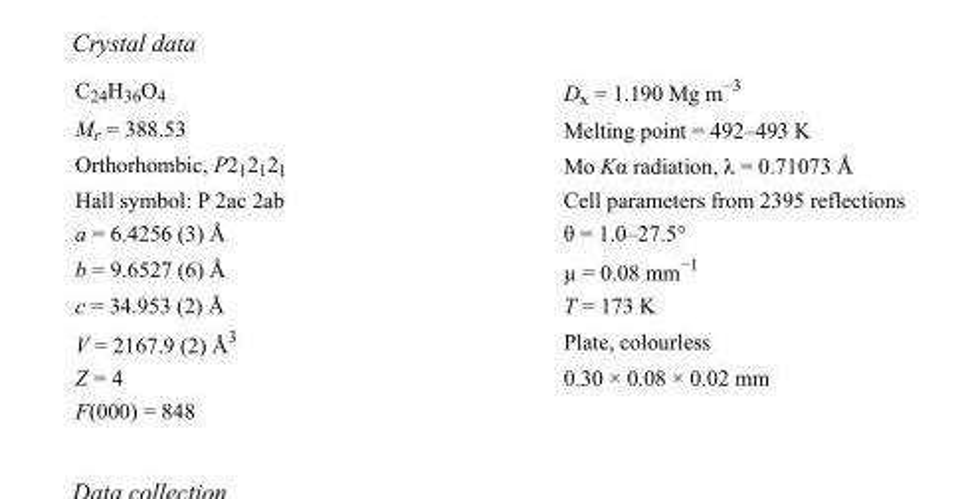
<table><tbody><tr><td>C<sub>24</sub>H<sub>36</sub>O<sub>4</sub></td><td>D<sub>x</sub> = 1.190 Mg m<sup>−3</sup></td></tr><tr><td>M<sub>r</sub> = 388.53</td><td>Melting point = 492–493 K</td></tr><tr><td>Orthorhombic, P2<sub>1</sub>2<sub>1</sub>2<sub>1</sub></td><td>Mo Kα radiation, λ = 0.71073 Å</td></tr><tr><td>Hall symbol: P 2ac 2ab</td><td>Cell parameters from 2395 reflections</td></tr><tr><td>a = 6.4256 (3) Å</td><td>θ = 1.0–27.5°</td></tr><tr><td>b = 9.6527 (6) Å</td><td>µ = 0.08 mm<sup>−1</sup></td></tr><tr><td>c = 34.953 (2) Å</td><td>T = 173 K</td></tr><tr><td>V = 2167.9 (2) Å<sup>3</sup></td><td>Plate, colourless</td></tr><tr><td>Z = 4</td><td>0.30 × 0.08 × 0.02 mm</td></tr><tr><td>F(000) = 848</td><td></td></tr></tbody></table>